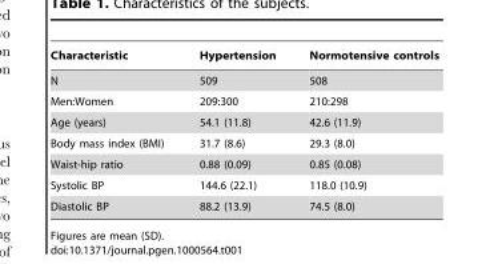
<table><thead><tr><td>Characteristic</td><td>Hypertension</td><td>Normotensive controls</td></tr></thead><tbody><tr><td>N</td><td>509</td><td>508</td></tr><tr><td>Men:Women</td><td>209:300</td><td>210:298</td></tr><tr><td>Age (years)</td><td>54.1 (11.8)</td><td>42.6 (11.9)</td></tr><tr><td>Body mass index (BMI)</td><td>31.7 (8.6)</td><td>29.3 (8.0)</td></tr><tr><td>Waist-hip ratio</td><td>0.88 (0.09)</td><td>0.85 (0.08)</td></tr><tr><td>Systolic BP</td><td>144.6 (22.1)</td><td>118.0 (10.9)</td></tr><tr><td>Diastolic BP</td><td>88.2 (13.9)</td><td>74.5 (8.0)</td></tr></tbody></table>